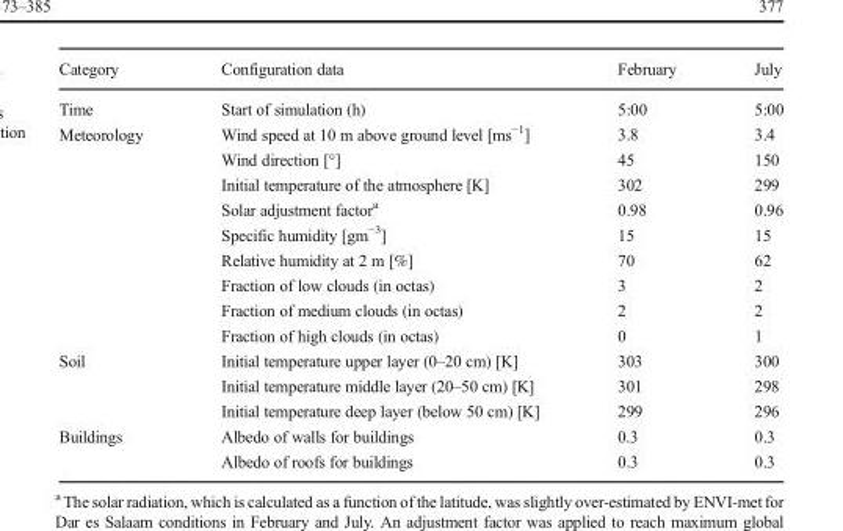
<table><thead><tr><td>Category</td><td>Configuration data</td><td>February</td><td>July</td></tr></thead><tbody><tr><td>Time</td><td>Start of simulation (h)</td><td>5:00</td><td>5:00</td></tr><tr><td rowspan="9">Meteorology</td><td>Wind speed at 10 m above ground level [ms<sup>−1</sup>]</td><td>3.8</td><td>3.4</td></tr><tr><td>Wind direction [°]</td><td>45</td><td>150</td></tr><tr><td>Initial temperature of the atmosphere [K]</td><td>302</td><td>299</td></tr><tr><td>Solar adjustment factor<sup>a</sup></td><td>0.98</td><td>0.96</td></tr><tr><td>Specific humidity [gm<sup>−3</sup>]</td><td>15</td><td>15</td></tr><tr><td>Relative humidity at 2 m [%]</td><td>70</td><td>62</td></tr><tr><td>Fraction of low clouds (in octas)</td><td>3</td><td>2</td></tr><tr><td>Fraction of medium clouds (in octas)</td><td>2</td><td>2</td></tr><tr><td>Fraction of high clouds (in octas)</td><td>0</td><td>1</td></tr><tr><td rowspan="3">Soil</td><td>Initial temperature upper layer (0–20 cm) [K]</td><td>303</td><td>300</td></tr><tr><td>Initial temperature middle layer (20–50 cm) [K]</td><td>301</td><td>298</td></tr><tr><td>Initial temperature deep layer (below 50 cm) [K]</td><td>299</td><td>296</td></tr><tr><td rowspan="2">Buildings</td><td>Albedo of walls for buildings</td><td>0.3</td><td>0.3</td></tr><tr><td>Albedo of roofs for buildings</td><td>0.3</td><td>0.3</td></tr></tbody></table>